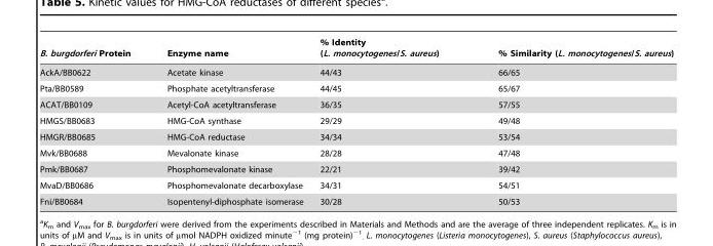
<table><thead><tr><td>B. burgdorferi Protein</td><td>Enzyme name</td><td>% Identity (L. monocytogenes/S. aureus)</td><td>% Similarity (L. monocytogenes/S. aureus)</td></tr></thead><tbody><tr><td>AckA/BB0622</td><td>Acetate kinase</td><td>44/43</td><td>66/65</td></tr><tr><td>Pta/BB0589</td><td>Phosphate acetyltransferase</td><td>44/45</td><td>65/67</td></tr><tr><td>ACAT/BB0109</td><td>Acetyl-CoA acetyltransferase</td><td>36/35</td><td>57/55</td></tr><tr><td>HMGS/BB0683</td><td>HMG-CoA synthase</td><td>29/29</td><td>49/48</td></tr><tr><td>HMGR/BB0685</td><td>HMG-CoA reductase</td><td>34/34</td><td>53/54</td></tr><tr><td>Mvk/BB0688</td><td>Mevalonate kinase</td><td>28/28</td><td>47/48</td></tr><tr><td>Pmk/BB0687</td><td>Phosphomevalonate kinase</td><td>22/21</td><td>39/42</td></tr><tr><td>MvaD/BB0686</td><td>Phosphomevalonate decarboxylase</td><td>34/31</td><td>54/51</td></tr><tr><td>Fni/BB0684</td><td>Isopentenyl-diphosphate isomerase</td><td>30/28</td><td>50/53</td></tr></tbody></table>